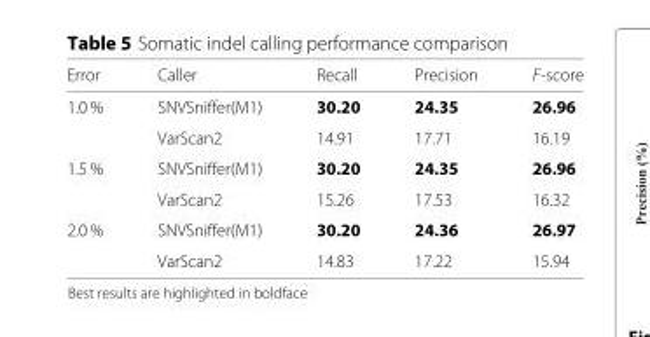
<table><thead><tr><td>Error</td><td>Caller</td><td>Recall</td><td>Precision</td><td>F-score</td></tr></thead><tbody><tr><td rowspan="2">1.0 %</td><td>SNVSniffer(M1)</td><td>30.20</td><td>24.35</td><td>26.96</td></tr><tr><td>VarScan2</td><td>14.91</td><td>17.71</td><td>16.19</td></tr><tr><td rowspan="2">1.5 %</td><td>SNVSniffer(M1)</td><td>30.20</td><td>24.35</td><td>26.96</td></tr><tr><td>VarScan2</td><td>15.26</td><td>17.53</td><td>16.32</td></tr><tr><td rowspan="2">2.0 %</td><td>SNVSniffer(M1)</td><td>30.20</td><td>24.36</td><td>26.97</td></tr><tr><td>VarScan2</td><td>14.83</td><td>17.22</td><td>15.94</td></tr></tbody></table>